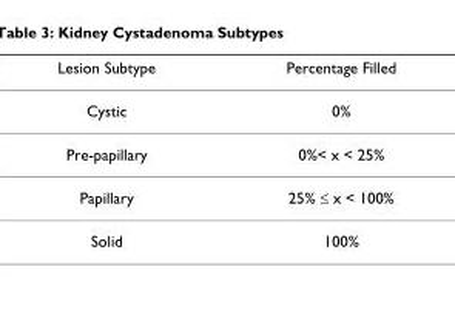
<table><thead><tr><td>Lesion Subtype</td><td>Percentage Filled</td></tr></thead><tbody><tr><td>Cystic</td><td>0%</td></tr><tr><td>Pre-papillary</td><td>0%&lt; x &lt; 25%</td></tr><tr><td>Papillary</td><td>25% ≤ x &lt; 100%</td></tr><tr><td>Solid</td><td>100%</td></tr></tbody></table>